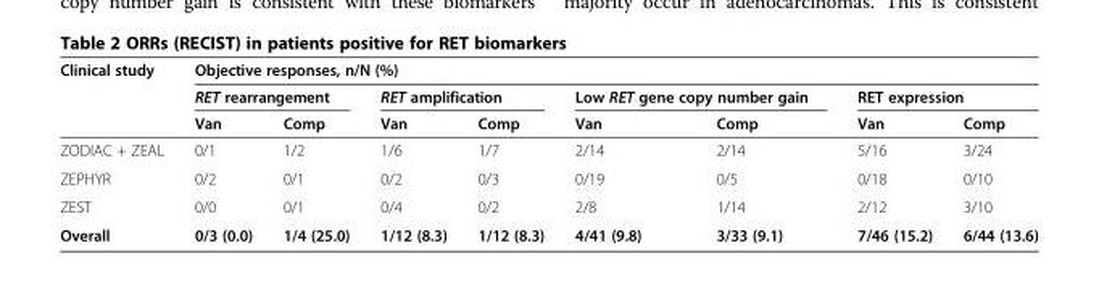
<table><thead><tr><td rowspan="3">Clinical study</td><td colspan="8">Objective responses, n/N (%)</td></tr><tr><td colspan="2">RET rearrangement</td><td colspan="2">RET amplification</td><td colspan="2">Low RET gene copy number gain</td><td colspan="2">RET expression</td></tr><tr><td>Van</td><td>Comp</td><td>Van</td><td>Comp</td><td>Van</td><td>Comp</td><td>Van</td><td>Comp</td></tr></thead><tbody><tr><td>ZODIAC + ZEAL</td><td>0/1</td><td>1/2</td><td>1/6</td><td>1/7</td><td>2/14</td><td>2/14</td><td>5/16</td><td>3/24</td></tr><tr><td>ZEPHYR</td><td>0/2</td><td>0/1</td><td>0/2</td><td>0/3</td><td>0/19</td><td>0/5</td><td>0/18</td><td>0/10</td></tr><tr><td>ZEST</td><td>0/0</td><td>0/1</td><td>0/4</td><td>0/2</td><td>2/8</td><td>1/14</td><td>2/12</td><td>3/10</td></tr><tr><td>Overall</td><td>0/3 (0.0)</td><td>1/4 (25.0)</td><td>1/12 (8.3)</td><td>1/12 (8.3)</td><td>4/41 (9.8)</td><td>3/33 (9.1)</td><td>7/46 (15.2)</td><td>6/44 (13.6)</td></tr></tbody></table>